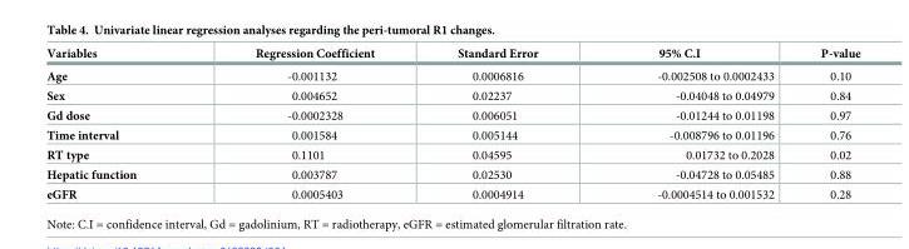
<table><thead><tr><td>Variables</td><td>Regression Coefficient</td><td>Standard Error</td><td>95% C.I</td><td>P-value</td></tr></thead><tbody><tr><td>Age</td><td>-0.001132</td><td>0.0006816</td><td>-0.002508 to 0.0002433</td><td>0.10</td></tr><tr><td>Sex</td><td>0.004652</td><td>0.02237</td><td>-0.04048 to 0.04979</td><td>0.84</td></tr><tr><td>Gd dose</td><td>-0.0002328</td><td>0.006051</td><td>-0.01244 to 0.01198</td><td>0.97</td></tr><tr><td>Time interval</td><td>0.001584</td><td>0.005144</td><td>-0.008796 to 0.01196</td><td>0.76</td></tr><tr><td>RT type</td><td>0.1101</td><td>0.04595</td><td>0.01732 to 0.2028</td><td>0.02</td></tr><tr><td>Hepatic function</td><td>0.003787</td><td>0.02530</td><td>-0.04728 to 0.05485</td><td>0.88</td></tr><tr><td>eGFR</td><td>0.0005403</td><td>0.0004914</td><td>-0.0004514 to 0.001532</td><td>0.28</td></tr></tbody></table>